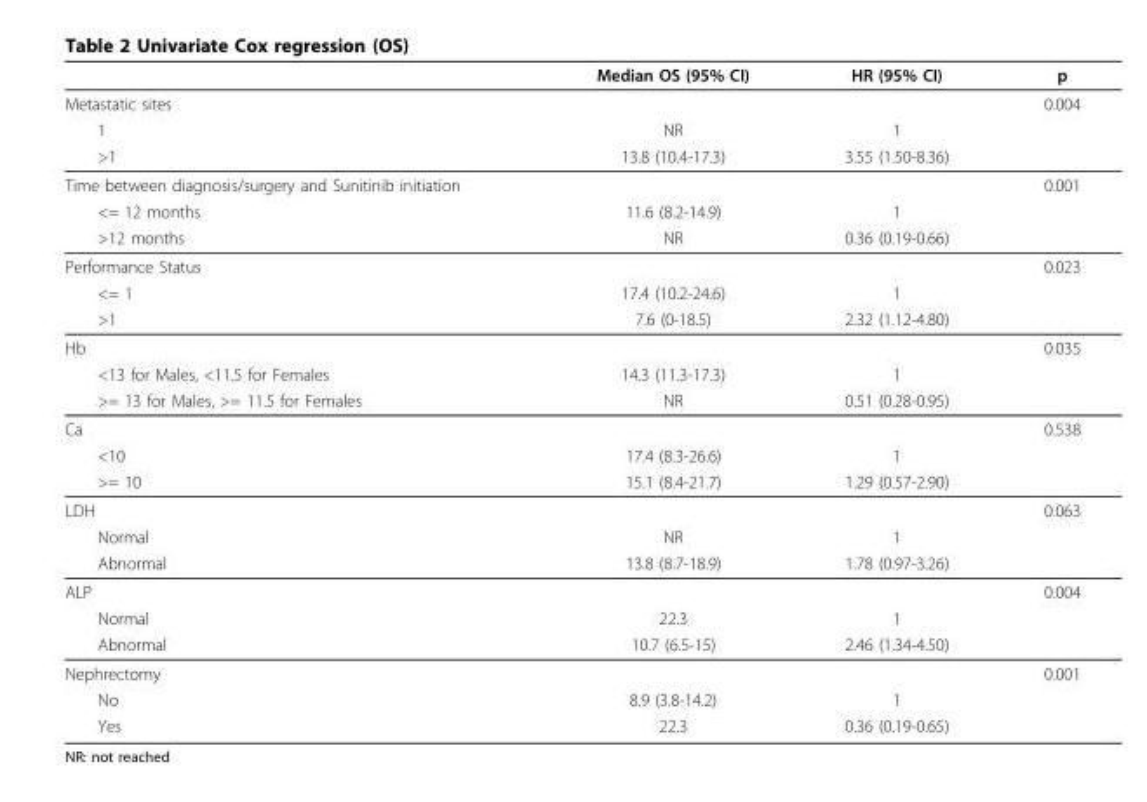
<table><thead><tr><td></td><td>Median OS (95% CI)</td><td>HR (95% CI)</td><td>p</td></tr></thead><tbody><tr><td>Metastatic sites</td><td></td><td></td><td>0.004</td></tr><tr><td>1</td><td>NR</td><td>1</td><td></td></tr><tr><td>&gt;1</td><td>13.8 (10.4-17.3)</td><td>3.55 (1.50-8.36)</td><td></td></tr><tr><td>Time between diagnosis/surgery and Sunitinib initiation</td><td></td><td></td><td>0.001</td></tr><tr><td>&lt;= 12 months</td><td>11.6 (8.2-14.9)</td><td>1</td><td></td></tr><tr><td>&gt;12 months</td><td>NR</td><td>0.36 (0.19-0.66)</td><td></td></tr><tr><td>Performance Status</td><td></td><td></td><td>0.023</td></tr><tr><td>&lt;= 1</td><td>17.4 (10.2-24.6)</td><td>1</td><td></td></tr><tr><td>&gt;1</td><td>7.6 (0-18.5)</td><td>2.32 (1.12-4.80)</td><td></td></tr><tr><td>Hb</td><td></td><td></td><td>0.035</td></tr><tr><td>&lt;13 for Males, &lt;11.5 for Females</td><td>14.3 (11.3-17.3)</td><td>1</td><td></td></tr><tr><td>&gt;= 13 for Males, &gt;= 11.5 for Females</td><td>NR</td><td>0.51 (0.28-0.95)</td><td></td></tr><tr><td>Ca</td><td></td><td></td><td>0.538</td></tr><tr><td>&lt;10</td><td>17.4 (8.3-26.6)</td><td>1</td><td></td></tr><tr><td>&gt;= 10</td><td>15.1 (8.4-21.7)</td><td>1.29 (0.57-2.90)</td><td></td></tr><tr><td>LDH</td><td></td><td></td><td>0.063</td></tr><tr><td>Normal</td><td>NR</td><td>1</td><td></td></tr><tr><td>Abnormal</td><td>13.8 (8.7-18.9)</td><td>1.78 (0.97-3.26)</td><td></td></tr><tr><td>ALP</td><td></td><td></td><td>0.004</td></tr><tr><td>Normal</td><td>22.3</td><td>1</td><td></td></tr><tr><td>Abnormal</td><td>10.7 (6.5-15)</td><td>2.46 (1.34-4.50)</td><td></td></tr><tr><td>Nephrectomy</td><td></td><td></td><td>0.001</td></tr><tr><td>No</td><td>8.9 (3.8-14.2)</td><td>1</td><td></td></tr><tr><td>Yes</td><td>22.3</td><td>0.36 (0.19-0.65)</td><td></td></tr></tbody></table>